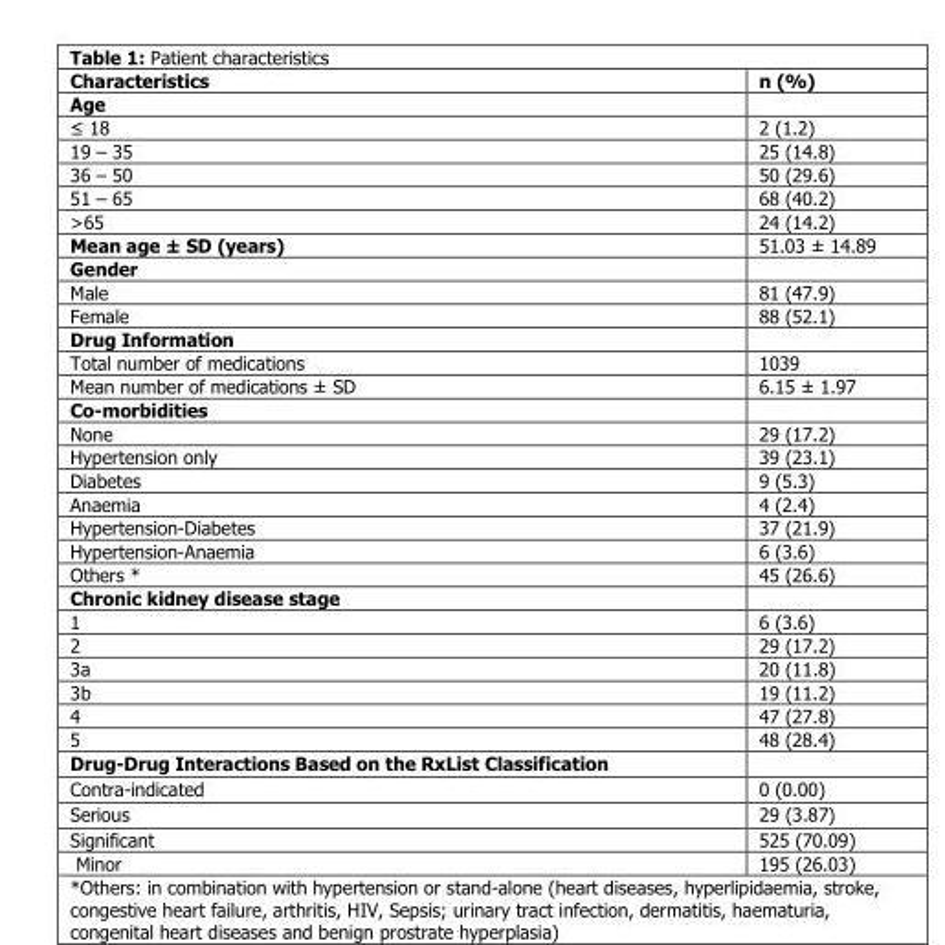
<table><thead><tr><td>Characteristics</td><td>n (%)</td></tr></thead><tbody><tr><td colspan="2">Age</td></tr><tr><td>≤ 18</td><td>2 (1.2)</td></tr><tr><td>19 – 35</td><td>25 (14.8)</td></tr><tr><td>36 – 50</td><td>50 (29.6)</td></tr><tr><td>51 – 65</td><td>68 (40.2)</td></tr><tr><td>&gt;65</td><td>24 (14.2)</td></tr><tr><td>Mean age ± SD (years)</td><td>51.03 ± 14.89</td></tr><tr><td colspan="2">Gender</td></tr><tr><td>Male</td><td>81 (47.9)</td></tr><tr><td>Female</td><td>88 (52.1)</td></tr><tr><td colspan="2">Drug Information</td></tr><tr><td>Total number of medications</td><td>1039</td></tr><tr><td>Mean number of medications ± SD</td><td>6.15 ± 1.97</td></tr><tr><td colspan="2">Co-morbidities</td></tr><tr><td>None</td><td>29 (17.2)</td></tr><tr><td>Hypertension only</td><td>39 (23.1)</td></tr><tr><td>Diabetes</td><td>9 (5.3)</td></tr><tr><td>Anaemia</td><td>4 (2.4)</td></tr><tr><td>Hypertension-Diabetes</td><td>37 (21.9)</td></tr><tr><td>Hypertension-Anaemia</td><td>6 (3.6)</td></tr><tr><td>Others *</td><td>45 (26.6)</td></tr><tr><td colspan="2">Chronic kidney disease stage</td></tr><tr><td>1</td><td>6 (3.6)</td></tr><tr><td>2</td><td>29 (17.2)</td></tr><tr><td>3a</td><td>20 (11.8)</td></tr><tr><td>3b</td><td>19 (11.2)</td></tr><tr><td>4</td><td>47 (27.8)</td></tr><tr><td>5</td><td>48 (28.4)</td></tr><tr><td colspan="2">Drug-Drug Interactions Based on the RxList Classification</td></tr><tr><td>Contra-indicated</td><td>0 (0.00)</td></tr><tr><td>Serious</td><td>29 (3.87)</td></tr><tr><td>Significant</td><td>525 (70.09)</td></tr><tr><td>Minor</td><td>195 (26.03)</td></tr></tbody></table>